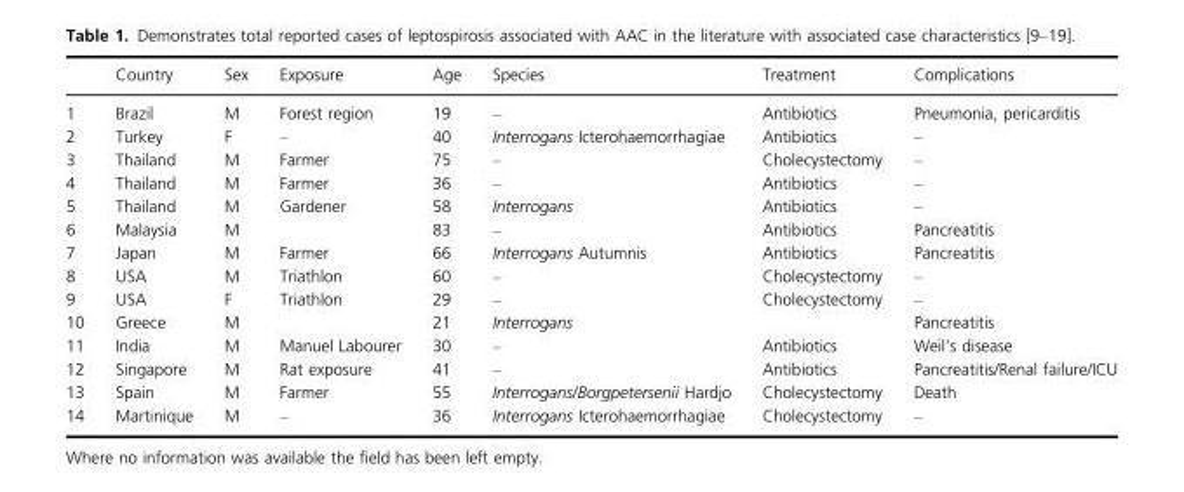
<table><thead><tr><td></td><td>Country</td><td>Sex</td><td>Exposure</td><td>Age</td><td>Species</td><td>Treatment</td><td>Complications</td></tr></thead><tbody><tr><td>1</td><td>Brazil</td><td>M</td><td>Forest region</td><td>19</td><td>–</td><td>Antibiotics</td><td>Pneumonia, pericarditis</td></tr><tr><td>2</td><td>Turkey</td><td>F</td><td>–</td><td>40</td><td>Interrogans Icterohaemorrhagiae</td><td>Antibiotics</td><td>–</td></tr><tr><td>3</td><td>Thailand</td><td>M</td><td>Farmer</td><td>75</td><td>–</td><td>Cholecystectomy</td><td>–</td></tr><tr><td>4</td><td>Thailand</td><td>M</td><td>Farmer</td><td>36</td><td>–</td><td>Antibiotics</td><td>–</td></tr><tr><td>5</td><td>Thailand</td><td>M</td><td>Gardener</td><td>58</td><td>Interrogans</td><td>Antibiotics</td><td>–</td></tr><tr><td>6</td><td>Malaysia</td><td>M</td><td></td><td>83</td><td>–</td><td>Antibiotics</td><td>Pancreatitis</td></tr><tr><td>7</td><td>Japan</td><td>M</td><td>Farmer</td><td>66</td><td>Interrogans Autumnis</td><td>Antibiotics</td><td>Pancreatitis</td></tr><tr><td>8</td><td>USA</td><td>M</td><td>Triathlon</td><td>60</td><td>–</td><td>Cholecystectomy</td><td>–</td></tr><tr><td>9</td><td>USA</td><td>F</td><td>Triathlon</td><td>29</td><td>–</td><td>Cholecystectomy</td><td>–</td></tr><tr><td>10</td><td>Greece</td><td>M</td><td></td><td>21</td><td>Interrogans</td><td></td><td>Pancreatitis</td></tr><tr><td>11</td><td>India</td><td>M</td><td>Manuel Labourer</td><td>30</td><td>–</td><td>Antibiotics</td><td>Weil’s disease</td></tr><tr><td>12</td><td>Singapore</td><td>M</td><td>Rat exposure</td><td>41</td><td>–</td><td>Antibiotics</td><td>Pancreatitis/Renal failure/ICU</td></tr><tr><td>13</td><td>Spain</td><td>M</td><td>Farmer</td><td>55</td><td>Interrogans/Borgpetersenii Hardjo</td><td>Cholecystectomy</td><td>Death</td></tr><tr><td>14</td><td>Martinique</td><td>M</td><td>–</td><td>36</td><td>Interrogans Icterohaemorrhagiae</td><td>Cholecystectomy</td><td>–</td></tr></tbody></table>